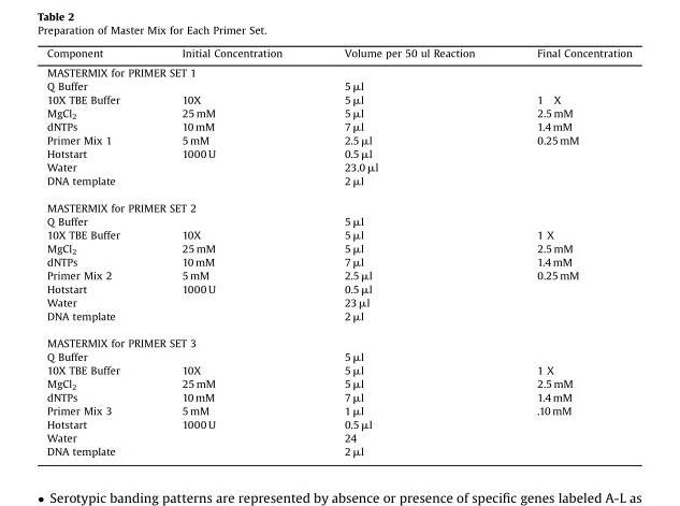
<table><thead><tr><td>Component</td><td>Initial Concentration</td><td>Volume per 50 ul Reaction</td><td>Final Concentration</td></tr></thead><tbody><tr><td colspan="4">MASTERMIX for PRIMER SET 1</td></tr><tr><td>Q Buffer</td><td></td><td>5 μl</td><td></td></tr><tr><td>10X TBE Buffer</td><td>10X</td><td>5 μl</td><td>1 X</td></tr><tr><td>MgCl<sub>2</sub></td><td>25 mM</td><td>5 μl</td><td>2.5 mM</td></tr><tr><td>dNTPs</td><td>10 mM</td><td>7 μl</td><td>1.4 mM</td></tr><tr><td>Primer Mix 1</td><td>5 mM</td><td>2.5 μl</td><td>0.25 mM</td></tr><tr><td>Hotstart</td><td>1000 U</td><td>0.5 μl</td><td></td></tr><tr><td>Water</td><td></td><td>23.0 μl</td><td></td></tr><tr><td>DNA template</td><td></td><td>2 μl</td><td></td></tr><tr><td colspan="4">MASTERMIX for PRIMER SET 2</td></tr><tr><td>Q Buffer</td><td></td><td>5 μl</td><td></td></tr><tr><td>10X TBE Buffer</td><td>10X</td><td>5 μl</td><td>1 X</td></tr><tr><td>MgCl<sub>2</sub></td><td>25 mM</td><td>5 μl</td><td>2.5 mM</td></tr><tr><td>dNTPs</td><td>10 mM</td><td>7 μl</td><td>1.4 mM</td></tr><tr><td>Primer Mix 2</td><td>5 mM</td><td>2.5 μl</td><td>0.25 mM</td></tr><tr><td>Hotstart</td><td>1000 U</td><td>0.5 μl</td><td></td></tr><tr><td>Water</td><td></td><td>23 μl</td><td></td></tr><tr><td>DNA template</td><td></td><td>2 μl</td><td></td></tr><tr><td colspan="4">MASTERMIX for PRIMER SET 3</td></tr><tr><td>Q Buffer</td><td></td><td>5 μl</td><td></td></tr><tr><td>10X TBE Buffer</td><td>10X</td><td>5 μl</td><td>1 X</td></tr><tr><td>MgCl<sub>2</sub></td><td>25 mM</td><td>5 μl</td><td>2.5 mM</td></tr><tr><td>dNTPs</td><td>10 mM</td><td>7 μl</td><td>1.4 mM</td></tr><tr><td>Primer Mix 3</td><td>5 mM</td><td>1 μl</td><td>.10 mM</td></tr><tr><td>Hotstart</td><td>1000 U</td><td>0.5 μl</td><td></td></tr><tr><td>Water</td><td></td><td>24</td><td></td></tr><tr><td>DNA template</td><td></td><td>2 μl</td><td></td></tr></tbody></table>